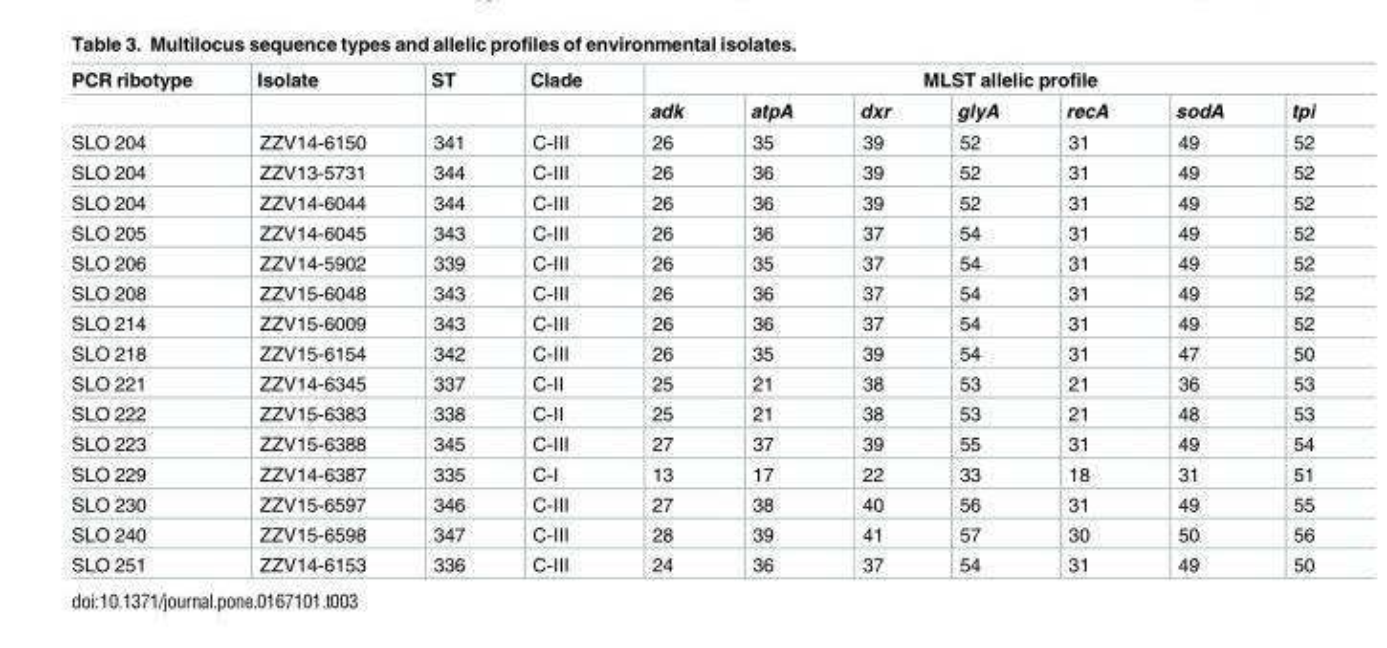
<table><thead><tr><td rowspan="2">PCR ribotype</td><td rowspan="2">Isolate</td><td rowspan="2">ST</td><td rowspan="2">Clade</td><td colspan="7">MLST allelic profile</td></tr><tr><td>adk</td><td>atpA</td><td>dxr</td><td>glyA</td><td>recA</td><td>sodA</td><td>tpi</td></tr></thead><tbody><tr><td>SLO 204</td><td>ZZV14-6150</td><td>341</td><td>C-III</td><td>26</td><td>35</td><td>39</td><td>52</td><td>31</td><td>49</td><td>52</td></tr><tr><td>SLO 204</td><td>ZZV13-5731</td><td>344</td><td>C-III</td><td>26</td><td>36</td><td>39</td><td>52</td><td>31</td><td>49</td><td>52</td></tr><tr><td>SLO 204</td><td>ZZV14-6044</td><td>344</td><td>C-III</td><td>26</td><td>36</td><td>39</td><td>52</td><td>31</td><td>49</td><td>52</td></tr><tr><td>SLO 205</td><td>ZZV14-6045</td><td>343</td><td>C-III</td><td>26</td><td>36</td><td>37</td><td>54</td><td>31</td><td>49</td><td>52</td></tr><tr><td>SLO 206</td><td>ZZV14-5902</td><td>339</td><td>C-III</td><td>26</td><td>35</td><td>37</td><td>54</td><td>31</td><td>49</td><td>52</td></tr><tr><td>SLO 208</td><td>ZZV15-6048</td><td>343</td><td>C-III</td><td>26</td><td>36</td><td>37</td><td>54</td><td>31</td><td>49</td><td>52</td></tr><tr><td>SLO 214</td><td>ZZV15-6009</td><td>343</td><td>C-III</td><td>26</td><td>36</td><td>37</td><td>54</td><td>31</td><td>49</td><td>52</td></tr><tr><td>SLO 218</td><td>ZZV15-6154</td><td>342</td><td>C-III</td><td>26</td><td>35</td><td>39</td><td>54</td><td>31</td><td>47</td><td>50</td></tr><tr><td>SLO 221</td><td>ZZV14-6345</td><td>337</td><td>C-II</td><td>25</td><td>21</td><td>38</td><td>53</td><td>21</td><td>36</td><td>53</td></tr><tr><td>SLO 222</td><td>ZZV15-6383</td><td>338</td><td>C-II</td><td>25</td><td>21</td><td>38</td><td>53</td><td>21</td><td>48</td><td>53</td></tr><tr><td>SLO 223</td><td>ZZV15-6388</td><td>345</td><td>C-III</td><td>27</td><td>37</td><td>39</td><td>55</td><td>31</td><td>49</td><td>54</td></tr><tr><td>SLO 229</td><td>ZZV14-6387</td><td>335</td><td>C-I</td><td>13</td><td>17</td><td>22</td><td>33</td><td>18</td><td>31</td><td>51</td></tr><tr><td>SLO 230</td><td>ZZV15-6597</td><td>346</td><td>C-III</td><td>27</td><td>38</td><td>40</td><td>56</td><td>31</td><td>49</td><td>55</td></tr><tr><td>SLO 240</td><td>ZZV15-6598</td><td>347</td><td>C-III</td><td>28</td><td>39</td><td>41</td><td>57</td><td>30</td><td>50</td><td>56</td></tr><tr><td>SLO 251</td><td>ZZV14-6153</td><td>336</td><td>C-III</td><td>24</td><td>36</td><td>37</td><td>54</td><td>31</td><td>49</td><td>50</td></tr></tbody></table>